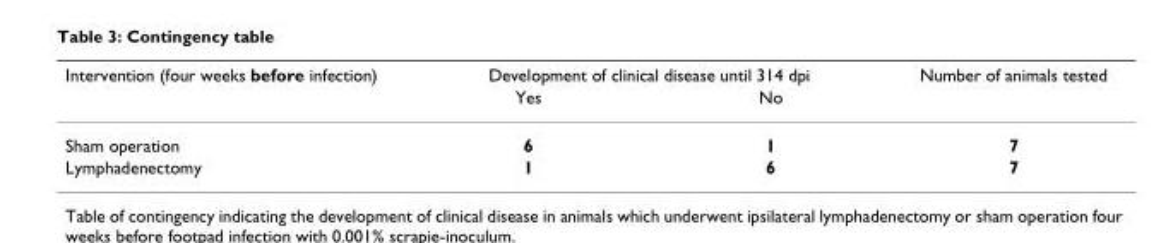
<table><thead><tr><td rowspan="2">Intervention (four weeks before infection)</td><td colspan="2">Development of clinical disease until 314 dpi</td><td rowspan="2">Number of animals tested</td></tr><tr><td>Yes</td><td>No</td></tr></thead><tbody><tr><td>Sham operation</td><td>6</td><td>1</td><td>7</td></tr><tr><td>Lymphadenectomy</td><td>1</td><td>6</td><td>7</td></tr></tbody></table>